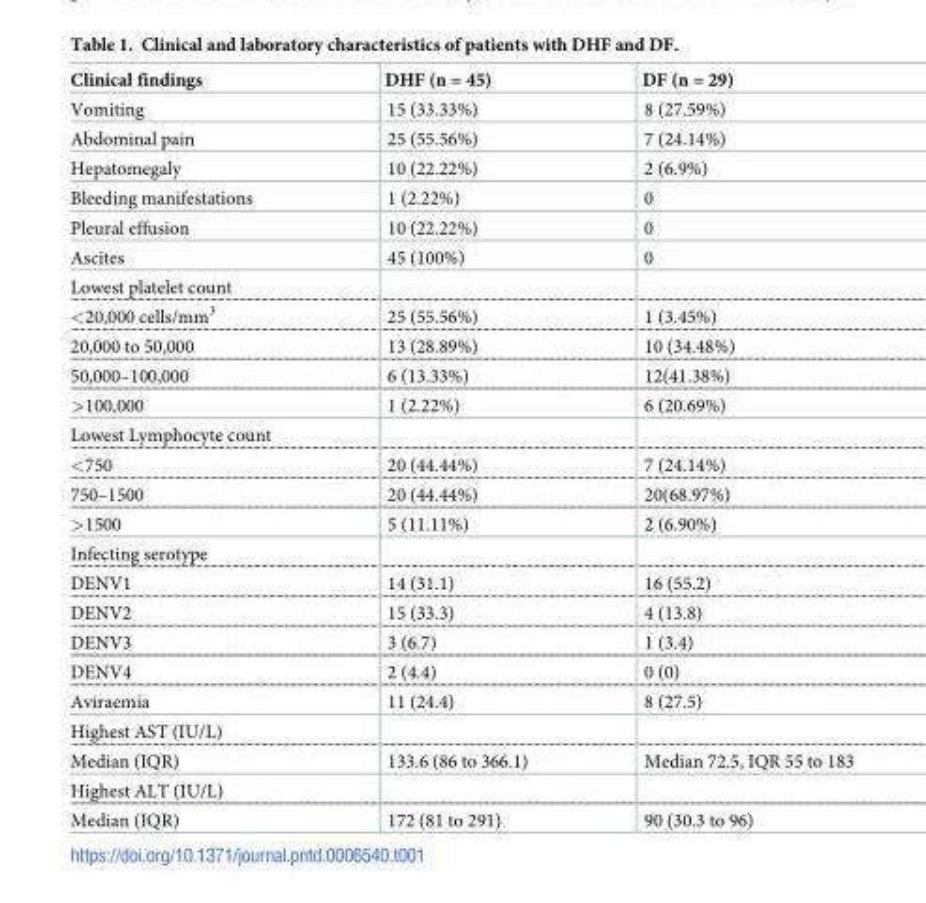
<table><thead><tr><td>Clinical findings</td><td>DHF (n = 45)</td><td>DF (n = 29)</td></tr></thead><tbody><tr><td>Vomiting</td><td>15 (33.33%)</td><td>8 (27.59%)</td></tr><tr><td>Abdominal pain</td><td>25 (55.56%)</td><td>7 (24.14%)</td></tr><tr><td>Hepatomegaly</td><td>10 (22.22%)</td><td>2 (6.9%)</td></tr><tr><td>Bleeding manifestations</td><td>1 (2.22%)</td><td>0</td></tr><tr><td>Pleural effusion</td><td>10 (22.22%)</td><td>0</td></tr><tr><td>Ascites</td><td>45 (100%)</td><td>0</td></tr><tr><td colspan="3">Lowest platelet count</td></tr><tr><td>&lt;20,000 cells/mm<sup>3</sup></td><td>25 (55.56%)</td><td>1 (3.45%)</td></tr><tr><td>20,000 to 50,000</td><td>13 (28.89%)</td><td>10 (34.48%)</td></tr><tr><td>50,000–100,000</td><td>6 (13.33%)</td><td>12(41.38%)</td></tr><tr><td>&gt;100,000</td><td>1 (2.22%)</td><td>6 (20.69%)</td></tr><tr><td colspan="3">Lowest Lymphocyte count</td></tr><tr><td>&lt;750</td><td>20 (44.44%)</td><td>7 (24.14%)</td></tr><tr><td>750–1500</td><td>20 (44.44%)</td><td>20(68.97%)</td></tr><tr><td>&gt;1500</td><td>5 (11.11%)</td><td>2 (6.90%)</td></tr><tr><td colspan="3">Infecting serotype</td></tr><tr><td>DENV1</td><td>14 (31.1)</td><td>16 (55.2)</td></tr><tr><td>DENV2</td><td>15 (33.3)</td><td>4 (13.8)</td></tr><tr><td>DENV3</td><td>3 (6.7)</td><td>1 (3.4)</td></tr><tr><td>DENV4</td><td>2 (4.4)</td><td>0 (0)</td></tr><tr><td>Aviraemia</td><td>11 (24.4)</td><td>8 (27.5)</td></tr><tr><td colspan="3">Highest AST (IU/L)</td></tr><tr><td>Median (IQR)</td><td>133.6 (86 to 366.1)</td><td>Median 72.5, IQR 55 to 183</td></tr><tr><td colspan="3">Highest ALT (IU/L)</td></tr><tr><td>Median (IQR)</td><td>172 (81 to 291)</td><td>90 (30.3 to 96)</td></tr></tbody></table>